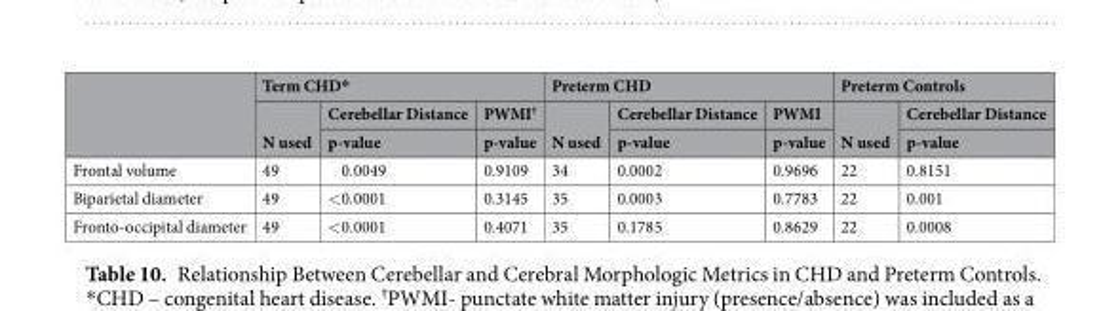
<table><thead><tr><td rowspan="3"></td><td colspan="3">Term CHD*</td><td colspan="3">Preterm CHD</td><td colspan="2">Preterm Controls</td></tr><tr><td rowspan="2">N used</td><td rowspan="2">Cerebellar Distance p-value</td><td rowspan="2">PWMI<sup>†</sup> p-value</td><td rowspan="2">N used</td><td rowspan="2">Cerebellar Distance p-value</td><td rowspan="2">PWMI p-value</td><td rowspan="2">N used</td><td rowspan="2">Cerebellar Distance p-value</td></tr><tr></tr></thead><tbody><tr><td>Frontal volume</td><td>49</td><td>0.0049</td><td>0.9109</td><td>34</td><td>0.0002</td><td>0.9696</td><td>22</td><td>0.8151</td></tr><tr><td>Biparietal diameter</td><td>49</td><td>&lt;0.0001</td><td>0.3145</td><td>35</td><td>0.0003</td><td>0.7783</td><td>22</td><td>0.001</td></tr><tr><td>Fronto-occipital diameter</td><td>49</td><td>&lt;0.0001</td><td>0.4071</td><td>35</td><td>0.1785</td><td>0.8629</td><td>22</td><td>0.0008</td></tr></tbody></table>